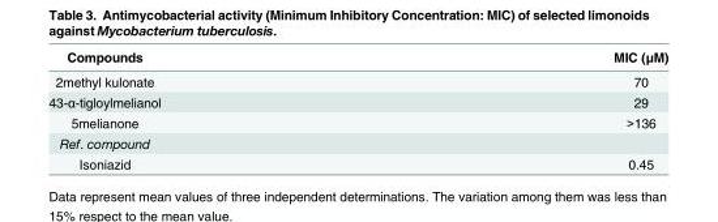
<table><thead><tr><td>Compounds</td><td>MIC (μM)</td></tr></thead><tbody><tr><td>2methyl kulonate</td><td>70</td></tr><tr><td>43-α-tigloylmelianol</td><td>29</td></tr><tr><td>5melianone</td><td>&gt;136</td></tr><tr><td colspan="2">Ref. compound</td></tr><tr><td>Isoniazid</td><td>0.45</td></tr></tbody></table>